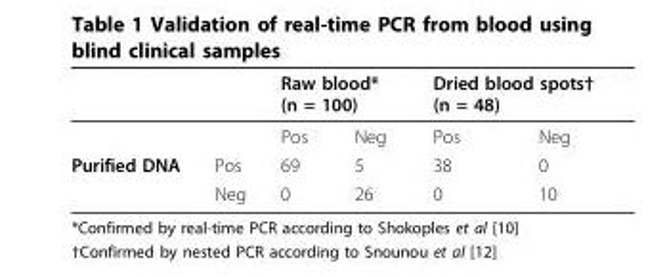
<table><thead><tr><td rowspan="2"></td><td rowspan="2"></td><td colspan="2">Raw blood* (n = 100)</td><td colspan="2">Dried blood spots† (n = 48)</td></tr><tr><td>Pos</td><td>Neg</td><td>Pos</td><td>Neg</td></tr></thead><tbody><tr><td rowspan="2">Purified DNA</td><td>Pos</td><td>69</td><td>5</td><td>38</td><td>0</td></tr><tr><td>Neg</td><td>0</td><td>26</td><td>0</td><td>10</td></tr></tbody></table>